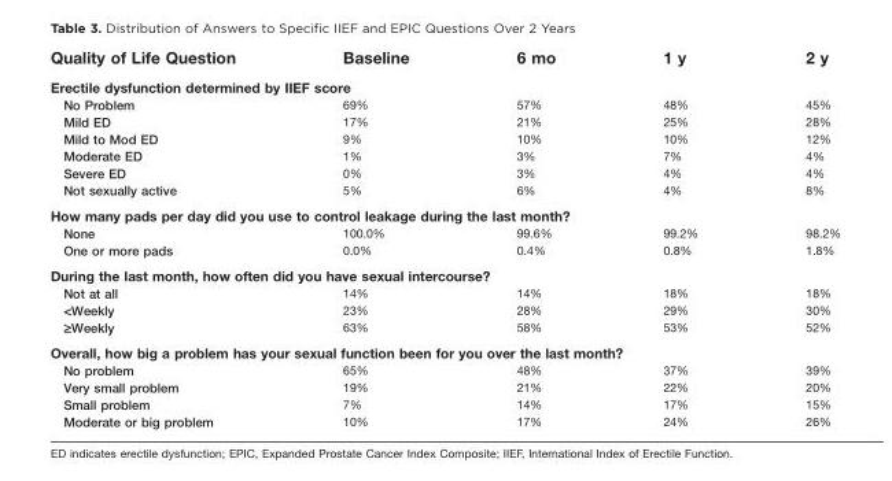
<table><thead><tr><td>Quality of Life Question</td><td>Baseline</td><td>6 mo</td><td>1 y</td><td>2 y</td></tr></thead><tbody><tr><td colspan="5">Erectile dysfunction determined by IIEF score</td></tr><tr><td>No Problem</td><td>69%</td><td>57%</td><td>48%</td><td>45%</td></tr><tr><td>Mild ED</td><td>17%</td><td>21%</td><td>25%</td><td>28%</td></tr><tr><td>Mild to Mod ED</td><td>9%</td><td>10%</td><td>10%</td><td>12%</td></tr><tr><td>Moderate ED</td><td>1%</td><td>3%</td><td>7%</td><td>4%</td></tr><tr><td>Severe ED</td><td>0%</td><td>3%</td><td>4%</td><td>4%</td></tr><tr><td>Not sexually active</td><td>5%</td><td>6%</td><td>4%</td><td>8%</td></tr><tr><td colspan="5">How many pads per day did you use to control leakage during the last month?</td></tr><tr><td>None</td><td>100.0%</td><td>99.6%</td><td>99.2%</td><td>98.2%</td></tr><tr><td>One or more pads</td><td>0.0%</td><td>0.4%</td><td>0.8%</td><td>1.8%</td></tr><tr><td colspan="5">During the last month, how often did you have sexual intercourse?</td></tr><tr><td>Not at all</td><td>14%</td><td>14%</td><td>18%</td><td>18%</td></tr><tr><td>&lt;Weekly</td><td>23%</td><td>28%</td><td>29%</td><td>30%</td></tr><tr><td>‡Weekly</td><td>63%</td><td>58%</td><td>53%</td><td>52%</td></tr><tr><td colspan="5">Overall, how big a problem has your sexual function been for you over the last month?</td></tr><tr><td>No problem</td><td>65%</td><td>48%</td><td>37%</td><td>39%</td></tr><tr><td>Very small problem</td><td>19%</td><td>21%</td><td>22%</td><td>20%</td></tr><tr><td>Small problem</td><td>7%</td><td>14%</td><td>17%</td><td>15%</td></tr><tr><td>Moderate or big problem</td><td>10%</td><td>17%</td><td>24%</td><td>26%</td></tr></tbody></table>